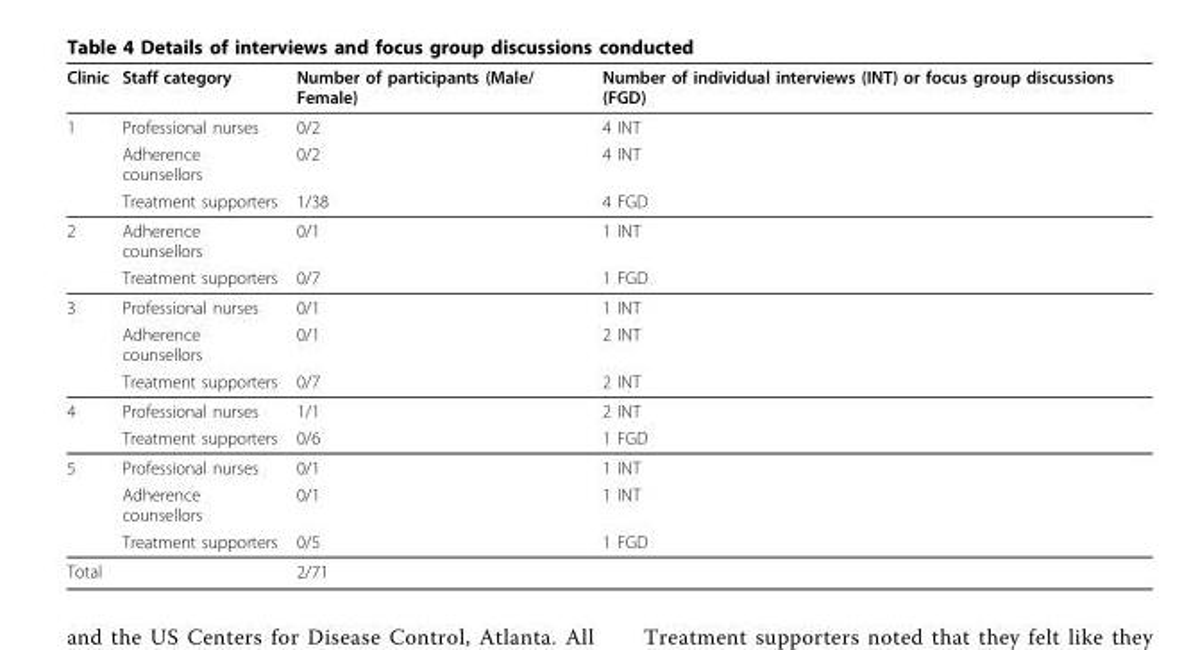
<table><thead><tr><td>Clinic</td><td>Staff category</td><td>Number of participants (Male/ Female)</td><td>Number of individual interviews (INT) or focus group discussions (FGD)</td></tr></thead><tbody><tr><td rowspan="3">1</td><td>Professional nurses</td><td>0/2</td><td>4 INT</td></tr><tr><td>Adherence counsellors</td><td>0/2</td><td>4 INT</td></tr><tr><td>Treatment supporters</td><td>1/38</td><td>4 FGD</td></tr><tr><td rowspan="2">2</td><td>Adherence counsellors</td><td>0/1</td><td>1 INT</td></tr><tr><td>Treatment supporters</td><td>0/7</td><td>1 FGD</td></tr><tr><td rowspan="3">3</td><td>Professional nurses</td><td>0/1</td><td>1 INT</td></tr><tr><td>Adherence counsellors</td><td>0/1</td><td>2 INT</td></tr><tr><td>Treatment supporters</td><td>0/7</td><td>2 INT</td></tr><tr><td rowspan="2">4</td><td>Professional nurses</td><td>1/1</td><td>2 INT</td></tr><tr><td>Treatment supporters</td><td>0/6</td><td>1 FGD</td></tr><tr><td rowspan="3">5</td><td>Professional nurses</td><td>0/1</td><td>1 INT</td></tr><tr><td>Adherence counsellors</td><td>0/1</td><td>1 INT</td></tr><tr><td>Treatment supporters</td><td>0/5</td><td>1 FGD</td></tr><tr><td>Total</td><td></td><td>2/71</td><td></td></tr></tbody></table>